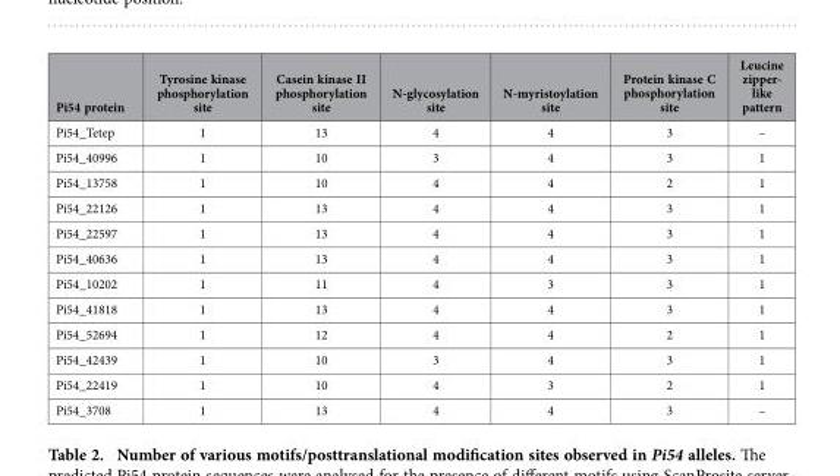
<table><thead><tr><td>Pi54 protein</td><td>Tyrosine kinase phosphorylation site</td><td>Casein kinase II phosphorylation site</td><td>N-glycosylation site</td><td>N-myristoylation site</td><td>Protein kinase C phosphorylation site</td><td>Leucine zipper- like pattern</td></tr></thead><tbody><tr><td>Pi54_Tetep</td><td>1</td><td>13</td><td>4</td><td>4</td><td>3</td><td>–</td></tr><tr><td>Pi54_40996</td><td>1</td><td>10</td><td>3</td><td>4</td><td>3</td><td>1</td></tr><tr><td>Pi54_13758</td><td>1</td><td>10</td><td>4</td><td>4</td><td>2</td><td>1</td></tr><tr><td>Pi54_22126</td><td>1</td><td>13</td><td>4</td><td>4</td><td>3</td><td>1</td></tr><tr><td>Pi54_22597</td><td>1</td><td>13</td><td>4</td><td>4</td><td>3</td><td>1</td></tr><tr><td>Pi54_40636</td><td>1</td><td>13</td><td>4</td><td>4</td><td>3</td><td>1</td></tr><tr><td>Pi54_10202</td><td>1</td><td>11</td><td>4</td><td>3</td><td>3</td><td>1</td></tr><tr><td>Pi54_41818</td><td>1</td><td>13</td><td>4</td><td>4</td><td>3</td><td>1</td></tr><tr><td>Pi54_52694</td><td>1</td><td>12</td><td>4</td><td>4</td><td>2</td><td>1</td></tr><tr><td>Pi54_42439</td><td>1</td><td>10</td><td>3</td><td>4</td><td>3</td><td>1</td></tr><tr><td>Pi54_22419</td><td>1</td><td>10</td><td>4</td><td>3</td><td>2</td><td>1</td></tr><tr><td>Pi54_3708</td><td>1</td><td>13</td><td>4</td><td>4</td><td>3</td><td>–</td></tr></tbody></table>